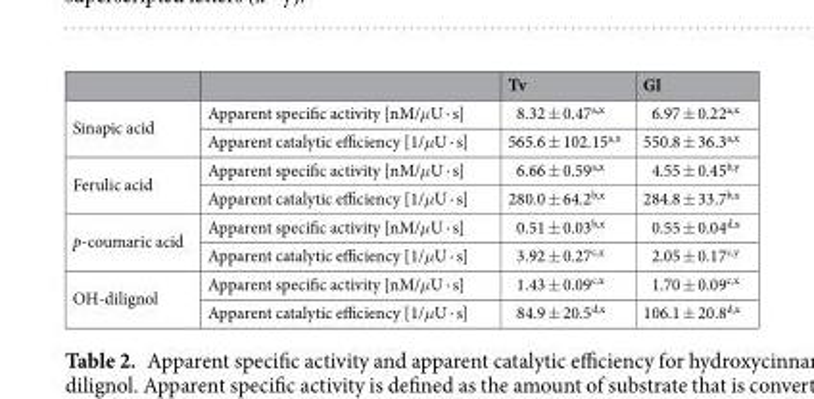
<table><thead><tr><td></td><td></td><td>Tv</td><td>Gl</td></tr></thead><tbody><tr><td rowspan="2">Sinapic acid</td><td>Apparent specific activity [nM/μU ⋅ s]</td><td>8.32 ± 0.47<sup>a,x</sup></td><td>6.97 ± 0.22<sup>a,x</sup></td></tr><tr><td>Apparent catalytic efficiency [1/μU ⋅ s]</td><td>565.6 ± 102.15<sup>a,x</sup></td><td>550.8 ± 36.3<sup>a,x</sup></td></tr><tr><td rowspan="2">Ferulic acid</td><td>Apparent specific activity [nM/μU ⋅ s]</td><td>6.66 ± 0.59<sup>a,x</sup></td><td>4.55 ± 0.45<sup>b,y</sup></td></tr><tr><td>Apparent catalytic efficiency [1/μU ⋅ s]</td><td>280.0 ± 64.2<sup>b,x</sup></td><td>284.8 ± 33.7<sup>b,x</sup></td></tr><tr><td rowspan="2">p-coumaric acid</td><td>Apparent specific activity [nM/μU ⋅ s]</td><td>0.51 ± 0.03<sup>b,x</sup></td><td>0.55 ± 0.04<sup>d,x</sup></td></tr><tr><td>Apparent catalytic efficiency [1/μU ⋅ s]</td><td>3.92 ± 0.27<sup>c,x</sup></td><td>2.05 ± 0.17<sup>c,y</sup></td></tr><tr><td rowspan="2">OH-dilignol</td><td>Apparent specific activity [nM/μU ⋅ s]</td><td>1.43 ± 0.09<sup>c,x</sup></td><td>1.70 ± 0.09<sup>c,x</sup></td></tr><tr><td>Apparent catalytic efficiency [1/μU ⋅ s]</td><td>84.9 ± 20.5<sup>d,x</sup></td><td>106.1 ± 20.8<sup>d,x</sup></td></tr></tbody></table>